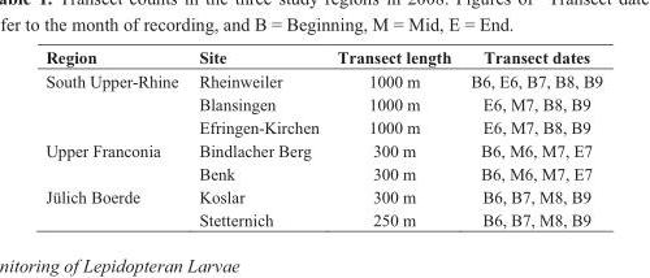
<table><thead><tr><td>Region</td><td>Site</td><td>Transect length</td><td>Transect dates</td></tr></thead><tbody><tr><td rowspan="3">South Upper-Rhine</td><td>Rheinweiler</td><td>1000 m</td><td>B6, E6, B7, B8, B9</td></tr><tr><td>Blansingen</td><td>1000 m</td><td>E6, M7, B8, B9</td></tr><tr><td>Efringen-Kirchen</td><td>1000 m</td><td>E6, M7, B8, B9</td></tr><tr><td rowspan="2">Upper Franconia</td><td>Bindlacher Berg</td><td>300 m</td><td>B6, M6, M7, E7</td></tr><tr><td>Benk</td><td>300 m</td><td>B6, M6, M7, E7</td></tr><tr><td rowspan="2">Jülich Boerde</td><td>Koslar</td><td>300 m</td><td>B6, B7, M8, B9</td></tr><tr><td>Stetternich</td><td>250 m</td><td>B6, B7, M8, B9</td></tr></tbody></table>